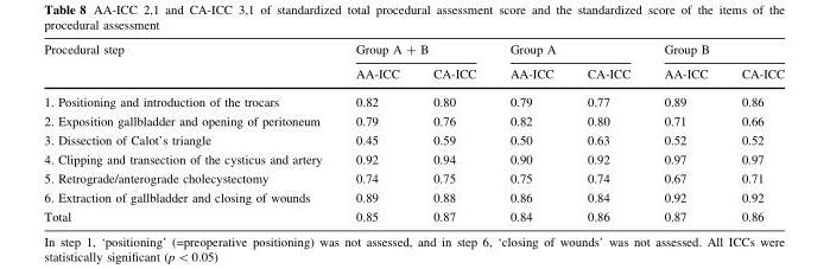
<table><thead><tr><td rowspan="2">Procedural step</td><td colspan="2">Group A + B</td><td colspan="2">Group A</td><td colspan="2">Group B</td></tr><tr><td>AA-ICC</td><td>CA-ICC</td><td>AA-ICC</td><td>CA-ICC</td><td>AA-ICC</td><td>CA-ICC</td></tr></thead><tbody><tr><td>1. Positioning and introduction of the trocars</td><td>0.82</td><td>0.80</td><td>0.79</td><td>0.77</td><td>0.89</td><td>0.86</td></tr><tr><td>2. Exposition gallbladder and opening of peritoneum</td><td>0.79</td><td>0.76</td><td>0.82</td><td>0.80</td><td>0.71</td><td>0.66</td></tr><tr><td>3. Dissection of Calot’s triangle</td><td>0.45</td><td>0.59</td><td>0.50</td><td>0.63</td><td>0.52</td><td>0.52</td></tr><tr><td>4. Clipping and transection of the cysticus and artery</td><td>0.92</td><td>0.94</td><td>0.90</td><td>0.92</td><td>0.97</td><td>0.97</td></tr><tr><td>5. Retrograde/anterograde cholecystectomy</td><td>0.74</td><td>0.75</td><td>0.75</td><td>0.74</td><td>0.67</td><td>0.71</td></tr><tr><td>6. Extraction of gallbladder and closing of wounds</td><td>0.89</td><td>0.88</td><td>0.86</td><td>0.84</td><td>0.92</td><td>0.92</td></tr><tr><td>Total</td><td>0.85</td><td>0.87</td><td>0.84</td><td>0.86</td><td>0.87</td><td>0.86</td></tr></tbody></table>